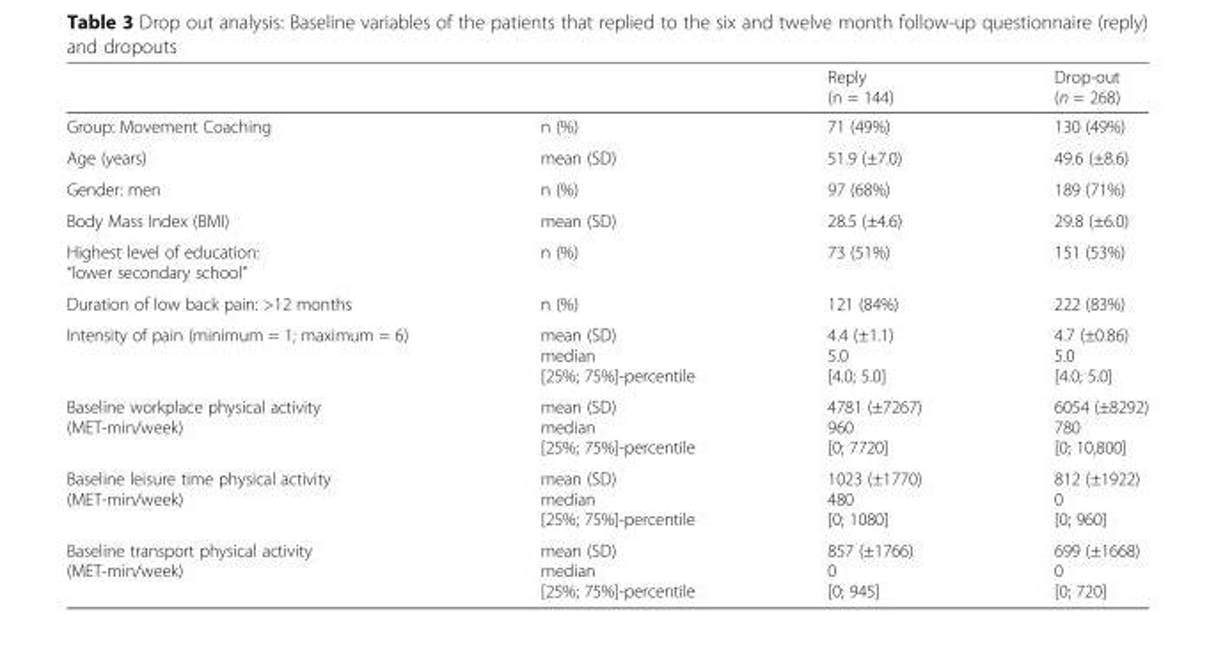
<table><thead><tr><td></td><td></td><td>Reply (n = 144)</td><td>Drop-out (n = 268)</td></tr></thead><tbody><tr><td>Group: Movement Coaching</td><td>n (%)</td><td>71 (49%)</td><td>130 (49%)</td></tr><tr><td>Age (years)</td><td>mean (SD)</td><td>51.9 (±7.0)</td><td>49.6 (±8.6)</td></tr><tr><td>Gender: men</td><td>n (%)</td><td>97 (68%)</td><td>189 (71%)</td></tr><tr><td>Body Mass Index (BMI)</td><td>mean (SD)</td><td>28.5 (±4.6)</td><td>29.8 (±6.0)</td></tr><tr><td>Highest level of education: “lower secondary school”</td><td>n (%)</td><td>73 (51%)</td><td>151 (53%)</td></tr><tr><td>Duration of low back pain: &gt;12 months</td><td>n (%)</td><td>121 (84%)</td><td>222 (83%)</td></tr><tr><td>Intensity of pain (minimum = 1; maximum = 6)</td><td>mean (SD) median [25%; 75%]-percentile</td><td>4.4 (±1.1) 5.0 [4.0; 5.0]</td><td>4.7 (±0.86) 5.0 [4.0; 5.0]</td></tr><tr><td>Baseline workplace physical activity (MET-min/week)</td><td>mean (SD) median [25%; 75%]-percentile</td><td>4781 (±7267) 960 [0; 7720]</td><td>6054 (±8292) 780 [0; 10,800]</td></tr><tr><td>Baseline leisure time physical activity (MET-min/week)</td><td>mean (SD) median [25%; 75%]-percentile</td><td>1023 (±1770) 480 [0; 1080]</td><td>812 (±1922) 0 [0; 960]</td></tr><tr><td>Baseline transport physical activity (MET-min/week)</td><td>mean (SD) median [25%; 75%]-percentile</td><td>857 (±1766) 0 [0; 945]</td><td>699 (±1668) 0 [0; 720]</td></tr></tbody></table>